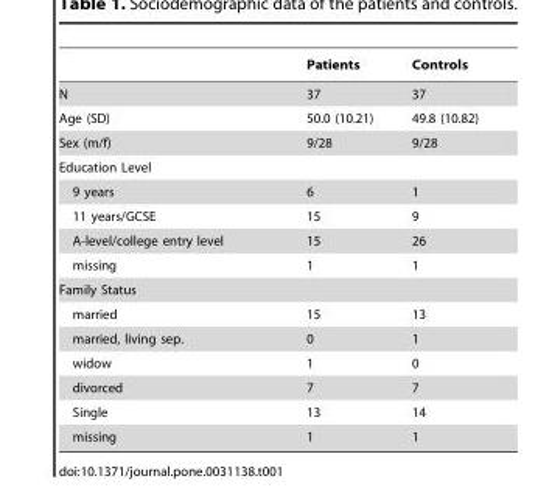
<table><thead><tr><td></td><td>Patients</td><td>Controls</td></tr></thead><tbody><tr><td>N</td><td>37</td><td>37</td></tr><tr><td>Age (SD)</td><td>50.0 (10.21)</td><td>49.8 (10.82)</td></tr><tr><td>Sex (m/f)</td><td>9/28</td><td>9/28</td></tr><tr><td colspan="3">Education Level</td></tr><tr><td>9 years</td><td>6</td><td>1</td></tr><tr><td>11 years/GCSE</td><td>15</td><td>9</td></tr><tr><td>A-level/college entry level</td><td>15</td><td>26</td></tr><tr><td>missing</td><td>1</td><td>1</td></tr><tr><td colspan="3">Family Status</td></tr><tr><td>married</td><td>15</td><td>13</td></tr><tr><td>married, living sep.</td><td>0</td><td>1</td></tr><tr><td>widow</td><td>1</td><td>0</td></tr><tr><td>divorced</td><td>7</td><td>7</td></tr><tr><td>Single</td><td>13</td><td>14</td></tr><tr><td>missing</td><td>1</td><td>1</td></tr></tbody></table>